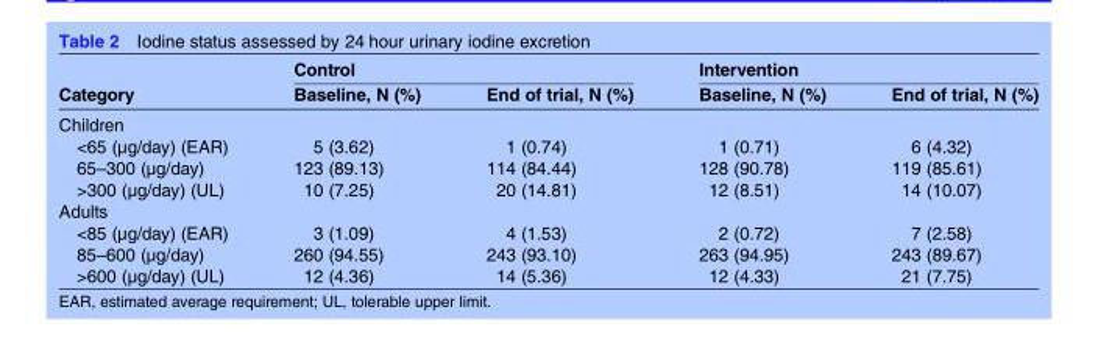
<table><thead><tr><td rowspan="2">Category</td><td colspan="2">Control</td><td colspan="2">Intervention</td></tr><tr><td>Baseline, N (%)</td><td>End of trial, N (%)</td><td>Baseline, N (%)</td><td>End of trial, N (%)</td></tr></thead><tbody><tr><td colspan="5">Children</td></tr><tr><td>&lt;65 (µg/day) (EAR)</td><td>5 (3.62)</td><td>1 (0.74)</td><td>1 (0.71)</td><td>6 (4.32)</td></tr><tr><td>65–300 (µg/day)</td><td>123 (89.13)</td><td>114 (84.44)</td><td>128 (90.78)</td><td>119 (85.61)</td></tr><tr><td>&gt;300 (µg/day) (UL)</td><td>10 (7.25)</td><td>20 (14.81)</td><td>12 (8.51)</td><td>14 (10.07)</td></tr><tr><td colspan="5">Adults</td></tr><tr><td>&lt;85 (µg/day) (EAR)</td><td>3 (1.09)</td><td>4 (1.53)</td><td>2 (0.72)</td><td>7 (2.58)</td></tr><tr><td>85–600 (µg/day)</td><td>260 (94.55)</td><td>243 (93.10)</td><td>263 (94.95)</td><td>243 (89.67)</td></tr><tr><td>&gt;600 (µg/day) (UL)</td><td>12 (4.36)</td><td>14 (5.36)</td><td>12 (4.33)</td><td>21 (7.75)</td></tr></tbody></table>